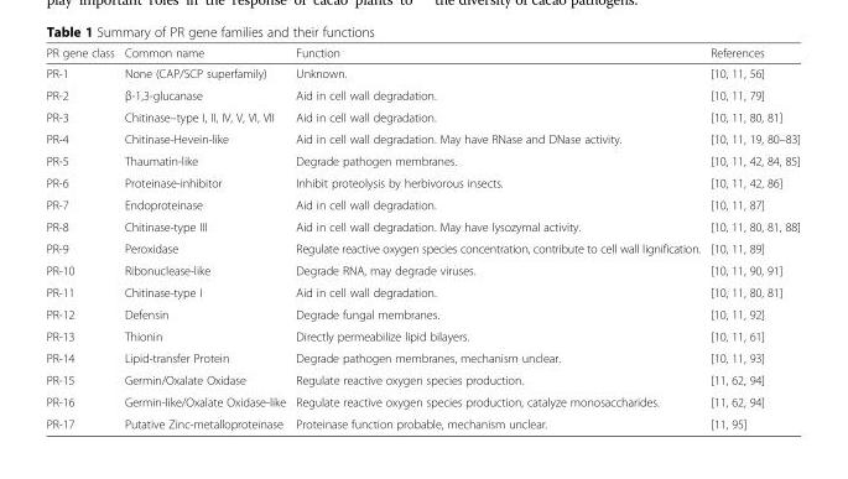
<table><thead><tr><td>PR gene class</td><td>Common name</td><td>Function</td><td>References</td></tr></thead><tbody><tr><td>PR-1</td><td>None (CAP/SCP superfamily)</td><td>Unknown.</td><td>[10, 11, 56]</td></tr><tr><td>PR-2</td><td>β-1,3-glucanase</td><td>Aid in cell wall degradation.</td><td>[10, 11, 79]</td></tr><tr><td>PR-3</td><td>Chitinase–type I, II, IV, V, VI, VII</td><td>Aid in cell wall degradation.</td><td>[10, 11, 80, 81]</td></tr><tr><td>PR-4</td><td>Chitinase-Hevein-like</td><td>Aid in cell wall degradation. May have RNase and DNase activity.</td><td>[10, 11, 19, 80–83]</td></tr><tr><td>PR-5</td><td>Thaumatin-like</td><td>Degrade pathogen membranes.</td><td>[10, 11, 42, 84, 85]</td></tr><tr><td>PR-6</td><td>Proteinase-inhibitor</td><td>Inhibit proteolysis by herbivorous insects.</td><td>[10, 11, 42, 86]</td></tr><tr><td>PR-7</td><td>Endoproteinase</td><td>Aid in cell wall degradation.</td><td>[10, 11, 87]</td></tr><tr><td>PR-8</td><td>Chitinase-type III</td><td>Aid in cell wall degradation. May have lysozymal activity.</td><td>[10, 11, 80, 81, 88]</td></tr><tr><td>PR-9</td><td>Peroxidase</td><td>Regulate reactive oxygen species concentration, contribute to cell wall lignification.</td><td>[10, 11, 89]</td></tr><tr><td>PR-10</td><td>Ribonuclease-like</td><td>Degrade RNA, may degrade viruses.</td><td>[10, 11, 90, 91]</td></tr><tr><td>PR-11</td><td>Chitinase-type I</td><td>Aid in cell wall degradation.</td><td>[10, 11, 80, 81]</td></tr><tr><td>PR-12</td><td>Defensin</td><td>Degrade fungal membranes.</td><td>[10, 11, 92]</td></tr><tr><td>PR-13</td><td>Thionin</td><td>Directly permeabilize lipid bilayers.</td><td>[10, 11, 61]</td></tr><tr><td>PR-14</td><td>Lipid-transfer Protein</td><td>Degrade pathogen membranes, mechanism unclear.</td><td>[10, 11, 93]</td></tr><tr><td>PR-15</td><td>Germin/Oxalate Oxidase</td><td>Regulate reactive oxygen species production.</td><td>[11, 62, 94]</td></tr><tr><td>PR-16</td><td>Germin-like/Oxalate Oxidase-like</td><td>Regulate reactive oxygen species production, catalyze monosaccharides.</td><td>[11, 62, 94]</td></tr><tr><td>PR-17</td><td>Putative Zinc-metalloproteinase</td><td>Proteinase function probable, mechanism unclear.</td><td>[11, 95]</td></tr></tbody></table>